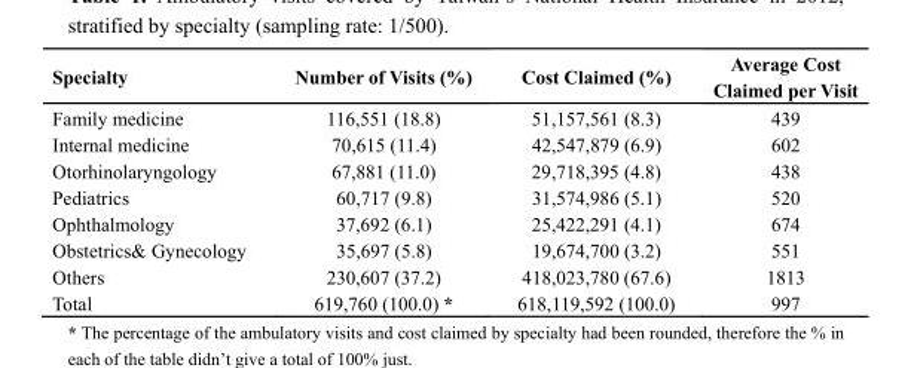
<table><thead><tr><td>Specialty</td><td>Number of Visits (%)</td><td>Cost Claimed (%)</td><td>Average Cost Claimed per Visit</td></tr></thead><tbody><tr><td>Family medicine</td><td>116,551 (18.8)</td><td>51,157,561 (8.3)</td><td>439</td></tr><tr><td>Internal medicine</td><td>70,615 (11.4)</td><td>42,547,879 (6.9)</td><td>602</td></tr><tr><td>Otorhinolaryngology</td><td>67,881 (11.0)</td><td>29,718,395 (4.8)</td><td>438</td></tr><tr><td>Pediatrics</td><td>60,717 (9.8)</td><td>31,574,986 (5.1)</td><td>520</td></tr><tr><td>Ophthalmology</td><td>37,692 (6.1)</td><td>25,422,291 (4.1)</td><td>674</td></tr><tr><td>Obstetrics&amp; Gynecology</td><td>35,697 (5.8)</td><td>19,674,700 (3.2)</td><td>551</td></tr><tr><td>Others</td><td>230,607 (37.2)</td><td>418,023,780 (67.6)</td><td>1813</td></tr><tr><td>Total</td><td>619,760 (100.0) *</td><td>618,119,592 (100.0)</td><td>997</td></tr></tbody></table>